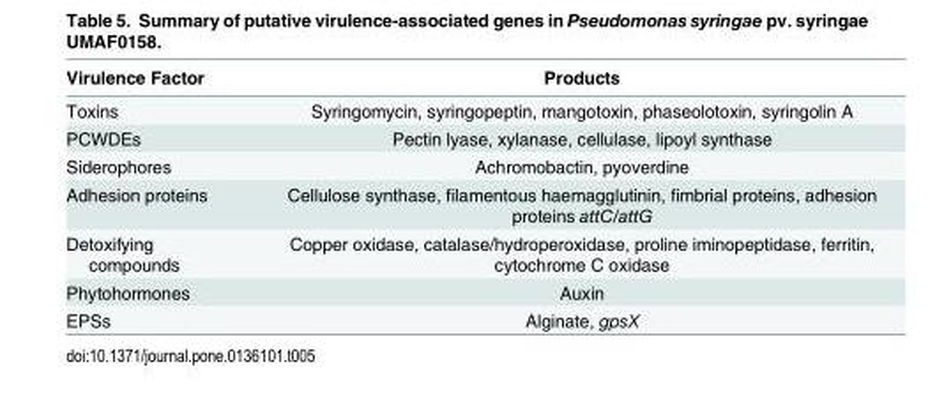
<table><thead><tr><td>Virulence Factor</td><td>Products</td></tr></thead><tbody><tr><td>Toxins</td><td>Syringomycin, syringopeptin, mangotoxin, phaseolotoxin, syringolin A</td></tr><tr><td>PCWDEs</td><td>Pectin lyase, xylanase, cellulase, lipoyl synthase</td></tr><tr><td>Siderophores</td><td>Achromobactin, pyoverdine</td></tr><tr><td>Adhesion proteins</td><td>Cellulose synthase, filamentous haemagglutinin, fimbrial proteins, adhesion proteins attC/attG</td></tr><tr><td>Detoxifying compounds</td><td>Copper oxidase, catalase/hydroperoxidase, proline iminopeptidase, ferritin, cytochrome C oxidase</td></tr><tr><td>Phytohormones</td><td>Auxin</td></tr><tr><td>EPSs</td><td>Alginate, gpsX</td></tr></tbody></table>